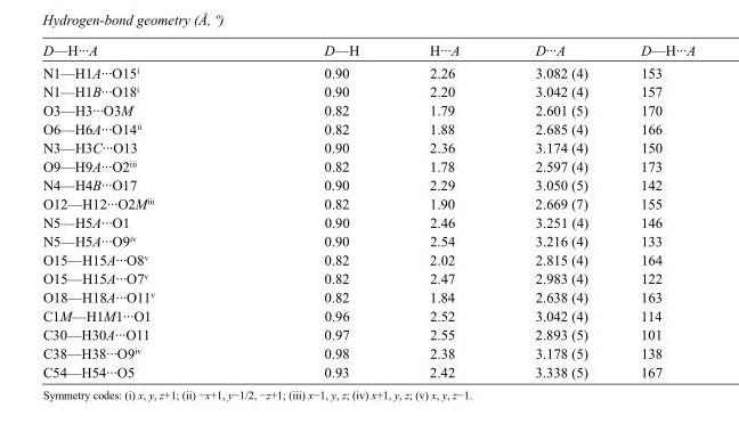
<table><tbody><tr><td>D—H···A</td><td>D—H</td><td>H···A</td><td>D···A</td><td>D—H···A</td></tr><tr><td>N1—H1A···O15<sup>i</sup></td><td>0.90</td><td>2.26</td><td>3.082 (4)</td><td>153</td></tr><tr><td>N1—H1B···O18<sup>i</sup></td><td>0.90</td><td>2.20</td><td>3.042 (4)</td><td>157</td></tr><tr><td>O3—H3···O3M</td><td>0.82</td><td>1.79</td><td>2.601 (5)</td><td>170</td></tr><tr><td>O6—H6A···O14<sup>ii</sup></td><td>0.82</td><td>1.88</td><td>2.685 (4)</td><td>166</td></tr><tr><td>N3—H3C···O13</td><td>0.90</td><td>2.36</td><td>3.174 (4)</td><td>150</td></tr><tr><td>O9—H9A···O2<sup>iii</sup></td><td>0.82</td><td>1.78</td><td>2.597 (4)</td><td>173</td></tr><tr><td>N4—H4B···O17</td><td>0.90</td><td>2.29</td><td>3.050 (5)</td><td>142</td></tr><tr><td>O12—H12···O2M<sup>iii</sup></td><td>0.82</td><td>1.90</td><td>2.669 (7)</td><td>155</td></tr><tr><td>N5—H5A···O1</td><td>0.90</td><td>2.46</td><td>3.251 (4)</td><td>146</td></tr><tr><td>N5—H5A···O9<sup>iv</sup></td><td>0.90</td><td>2.54</td><td>3.216 (4)</td><td>133</td></tr><tr><td>O15—H15A···O8<sup>v</sup></td><td>0.82</td><td>2.02</td><td>2.815 (4)</td><td>164</td></tr><tr><td>O15—H15A···O7<sup>v</sup></td><td>0.82</td><td>2.47</td><td>2.983 (4)</td><td>122</td></tr><tr><td>O18—H18A···O11<sup>v</sup></td><td>0.82</td><td>1.84</td><td>2.638 (4)</td><td>163</td></tr><tr><td>C1M—H1M1···O1</td><td>0.96</td><td>2.52</td><td>3.042 (4)</td><td>114</td></tr><tr><td>C30—H30A···O11</td><td>0.97</td><td>2.55</td><td>2.893 (5)</td><td>101</td></tr><tr><td>C38—H38···O9<sup>iv</sup></td><td>0.98</td><td>2.38</td><td>3.178 (5)</td><td>138</td></tr><tr><td>C54—H54···O5</td><td>0.93</td><td>2.42</td><td>3.338 (5)</td><td>167</td></tr></tbody></table>